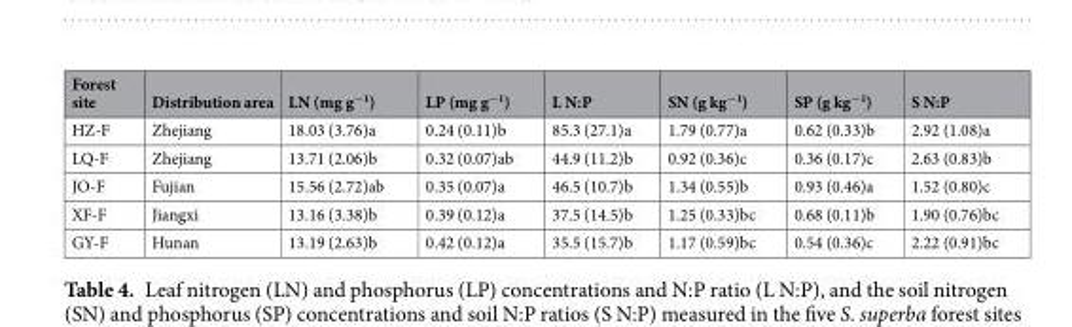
<table><thead><tr><td>Forest site</td><td>Distribution area</td><td>LN (mg g<sup>−1</sup>)</td><td>LP (mg g<sup>−1</sup>)</td><td>L N:P</td><td>SN (g kg<sup>−1</sup>)</td><td>SP (g kg<sup>−1</sup>)</td><td>S N:P</td></tr></thead><tbody><tr><td>HZ-F</td><td>Zhejiang</td><td>18.03 (3.76)a</td><td>0.24 (0.11)b</td><td>85.3 (27.1)a</td><td>1.79 (0.77)a</td><td>0.62 (0.33)b</td><td>2.92 (1.08)a</td></tr><tr><td>LQ-F</td><td>Zhejiang</td><td>13.71 (2.06)b</td><td>0.32 (0.07)ab</td><td>44.9 (11.2)b</td><td>0.92 (0.36)c</td><td>0.36 (0.17)c</td><td>2.63 (0.83)b</td></tr><tr><td>JO-F</td><td>Fujian</td><td>15.56 (2.72)ab</td><td>0.35 (0.07)a</td><td>46.5 (10.7)b</td><td>1.34 (0.55)b</td><td>0.93 (0.46)a</td><td>1.52 (0.80)c</td></tr><tr><td>XF-F</td><td>Jiangxi</td><td>13.16 (3.38)b</td><td>0.39 (0.12)a</td><td>37.5 (14.5)b</td><td>1.25 (0.33)bc</td><td>0.68 (0.11)b</td><td>1.90 (0.76)bc</td></tr><tr><td>GY-F</td><td>Hunan</td><td>13.19 (2.63)b</td><td>0.42 (0.12)a</td><td>35.5 (15.7)b</td><td>1.17 (0.59)bc</td><td>0.54 (0.36)c</td><td>2.22 (0.91)bc</td></tr></tbody></table>